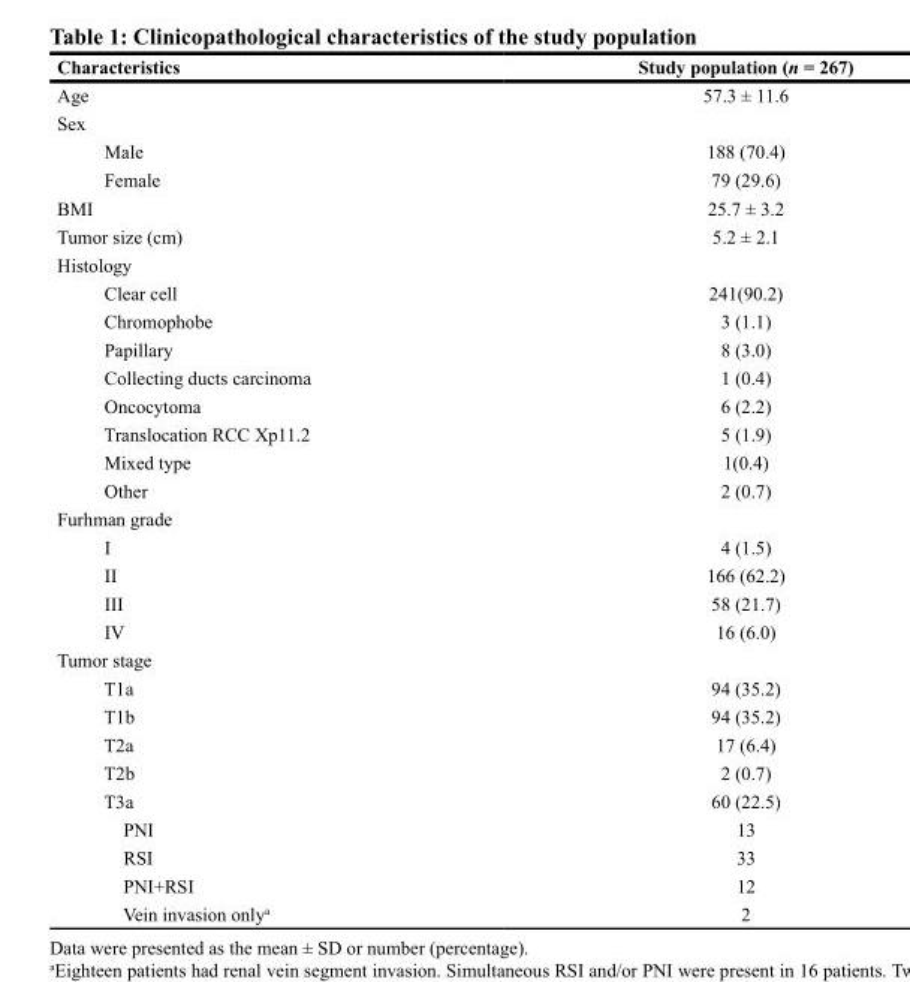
<table><thead><tr><td>Characteristics</td><td>Study population (n = 267)</td></tr></thead><tbody><tr><td>Age</td><td>57.3 ± 11.6</td></tr><tr><td colspan="2">Sex</td></tr><tr><td>Male</td><td>188 (70.4)</td></tr><tr><td>Female</td><td>79 (29.6)</td></tr><tr><td>BMI</td><td>25.7 ± 3.2</td></tr><tr><td>Tumor size (cm)</td><td>5.2 ± 2.1</td></tr><tr><td colspan="2">Histology</td></tr><tr><td>Clear cell</td><td>241(90.2)</td></tr><tr><td>Chromophobe</td><td>3 (1.1)</td></tr><tr><td>Papillary</td><td>8 (3.0)</td></tr><tr><td>Collecting ducts carcinoma</td><td>1 (0.4)</td></tr><tr><td>Oncocytoma</td><td>6 (2.2)</td></tr><tr><td>Translocation RCC Xp11.2</td><td>5 (1.9)</td></tr><tr><td>Mixed type</td><td>1(0.4)</td></tr><tr><td>Other</td><td>2 (0.7)</td></tr><tr><td colspan="2">Furhman grade</td></tr><tr><td>I</td><td>4 (1.5)</td></tr><tr><td>II</td><td>166 (62.2)</td></tr><tr><td>III</td><td>58 (21.7)</td></tr><tr><td>IV</td><td>16 (6.0)</td></tr><tr><td colspan="2">Tumor stage</td></tr><tr><td>T1a</td><td>94 (35.2)</td></tr><tr><td>T1b</td><td>94 (35.2)</td></tr><tr><td>T2a</td><td>17 (6.4)</td></tr><tr><td>T2b</td><td>2 (0.7)</td></tr><tr><td>T3a</td><td>60 (22.5)</td></tr><tr><td>PNI</td><td>13</td></tr><tr><td>RSI</td><td>33</td></tr><tr><td>PNI+RSI</td><td>12</td></tr><tr><td>Vein invasion only<sup>a</sup></td><td>2</td></tr></tbody></table>